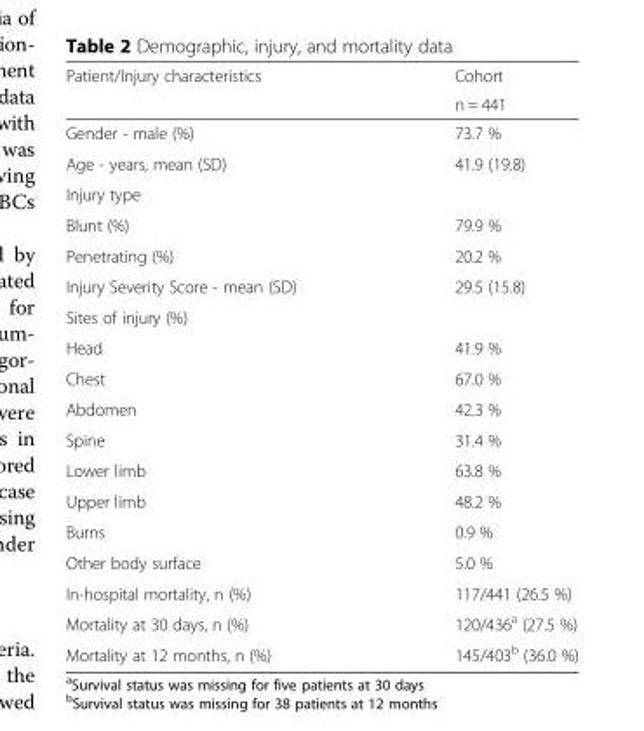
<table><thead><tr><td rowspan="2">Patient/Injury characteristics</td><td rowspan="2">Cohort n = 441</td></tr><tr></tr></thead><tbody><tr><td>Gender - male (%)</td><td>73.7 %</td></tr><tr><td>Age - years, mean (SD)</td><td>41.9 (19.8)</td></tr><tr><td colspan="2">Injury type</td></tr><tr><td>Blunt (%)</td><td>79.9 %</td></tr><tr><td>Penetrating (%)</td><td>20.2 %</td></tr><tr><td>Injury Severity Score - mean (SD)</td><td>29.5 (15.8)</td></tr><tr><td colspan="2">Sites of injury (%)</td></tr><tr><td>Head</td><td>41.9 %</td></tr><tr><td>Chest</td><td>67.0 %</td></tr><tr><td>Abdomen</td><td>42.3 %</td></tr><tr><td>Spine</td><td>31.4 %</td></tr><tr><td>Lower limb</td><td>63.8 %</td></tr><tr><td>Upper limb</td><td>48.2 %</td></tr><tr><td>Burns</td><td>0.9 %</td></tr><tr><td>Other body surface</td><td>5.0 %</td></tr><tr><td>In-hospital mortality, n (%)</td><td>117/441 (26.5 %)</td></tr><tr><td>Mortality at 30 days, n (%)</td><td>120/436<sup>a</sup> (27.5 %)</td></tr><tr><td>Mortality at 12 months, n (%)</td><td>145/403<sup>b</sup> (36.0 %)</td></tr></tbody></table>